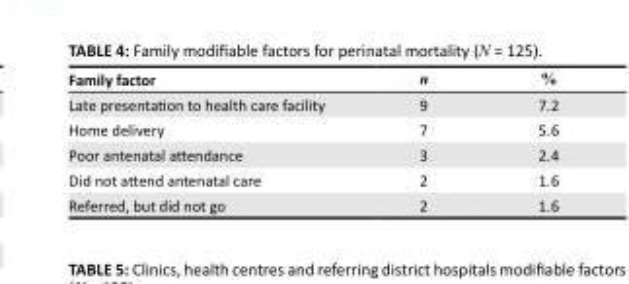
<table><thead><tr><td>Family factor</td><td>n</td><td>%</td></tr></thead><tbody><tr><td>Late presentation to health care facility</td><td>9</td><td>7.2</td></tr><tr><td>Home delivery</td><td>7</td><td>5.6</td></tr><tr><td>Poor antenatal attendance</td><td>3</td><td>2.4</td></tr><tr><td>Did not attend antenatal care</td><td>2</td><td>1.6</td></tr><tr><td>Referred, but did not go</td><td>2</td><td>1.6</td></tr></tbody></table>